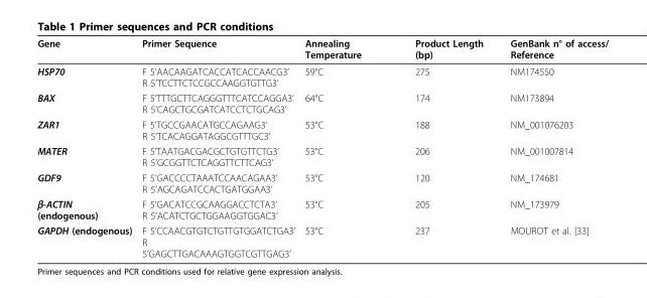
<table><thead><tr><td>Gene</td><td>Primer Sequence</td><td>Annealing Temperature</td><td>Product Length (bp)</td><td>GenBank n° of access/ Reference</td></tr></thead><tbody><tr><td>HSP70</td><td>F 5’AACAAGATCACCATCACCAACG3’ R 5’TCCTTCTCCGCCAAGGTGTTG3’</td><td>59°C</td><td>275</td><td>NM174550</td></tr><tr><td>BAX</td><td>F 5’TTTGCTTCAGGGTTTCATCCAGGA3’ R 5’CAGCTGCGATCATCCTCTGCAG3’</td><td>64°C</td><td>174</td><td>NM173894</td></tr><tr><td>ZAR1</td><td>F 5’TGCCGAACATGCCAGAAG3’ R 5’TCACAGGATAGGCGTTTGC3’</td><td>53°C</td><td>188</td><td>NM_001076203</td></tr><tr><td>MATER</td><td>F 5’TAATGACGACGCTGTGTTCTG3’ R 5’GCGGTTCTCAGGTTCTTCAG3’</td><td>53°C</td><td>206</td><td>NM_001007814</td></tr><tr><td>GDF9</td><td>F 5’GACCCCTAAATCCAACAGAA3’ R 5’AGCAGATCCACTGATGGAA3’</td><td>53°C</td><td>120</td><td>NM_174681</td></tr><tr><td>β-ACTIN (endogenous)</td><td>F 5’GACATCCGCAAGGACCTCTA3’ R 5’ACATCTGCTGGAAGGTGGAC3’</td><td>53°C</td><td>205</td><td>NM_173979</td></tr><tr><td>GAPDH (endogenous)</td><td>F 5’CCAACGTGTCTGTTGTGGATCTGA3’ R 5’GAGCTTGACAAAGTGGTCGTTGAG3’</td><td>53°C</td><td>237</td><td>MOUROT et al. [33]</td></tr></tbody></table>